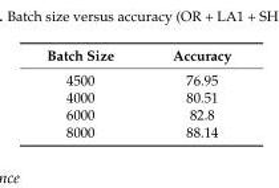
<table><thead><tr><td>Batch Size</td><td>Accuracy</td></tr></thead><tbody><tr><td>4500</td><td>76.95</td></tr><tr><td>4000</td><td>80.51</td></tr><tr><td>6000</td><td>82.8</td></tr><tr><td>8000</td><td>88.14</td></tr></tbody></table>